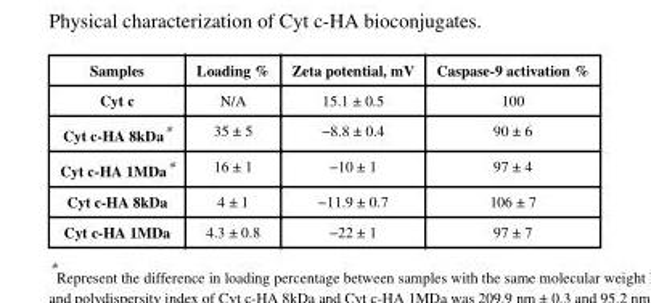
<table><thead><tr><td>Samples</td><td>Loading %</td><td>Zeta potential, mV</td><td>Caspase-9 activation %</td></tr></thead><tbody><tr><td>Cyt c</td><td>N/A</td><td>15.1 ± 0.5</td><td>100</td></tr><tr><td>Cyt c-HA 8kDa*</td><td>35 ± 5</td><td>−8.8 ± 0.4</td><td>90 ± 6</td></tr><tr><td>Cyt c-HA 1MDa*</td><td>16 ± 1</td><td>−10 ± 1</td><td>97 ± 4</td></tr><tr><td>Cyt c-HA 8kDa</td><td>4 ± 1</td><td>−11.9 ± 0.7</td><td>106 ± 7</td></tr><tr><td>Cyt c-HA 1MDa</td><td>4.3 ± 0.8</td><td>−22 ± 1</td><td>97 ± 7</td></tr></tbody></table>